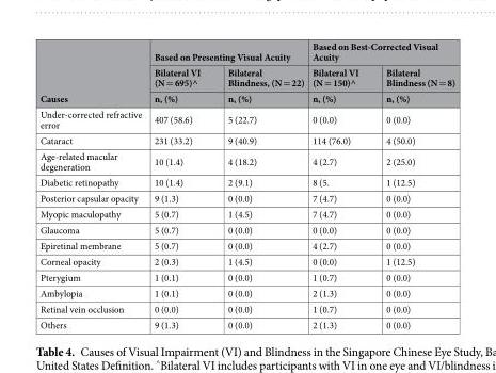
<table><thead><tr><td rowspan="3">Causes</td><td colspan="2">Based on Presenting Visual Acuity</td><td colspan="2">Based on Best-Corrected Visual Acuity</td></tr><tr><td rowspan="2">Bilateral VI (N = 695)^ n, (%)</td><td rowspan="2">Bilateral Blindness, (N = 22) n, (%)</td><td rowspan="2">Bilateral VI (N = 150)^ n, (%)</td><td rowspan="2">Bilateral Blindness (N = 8) n, (%)</td></tr><tr></tr></thead><tbody><tr><td>Under-corrected refractive error</td><td>407 (58.6)</td><td>5 (22.7)</td><td>0 (0.0)</td><td>0 (0.0)</td></tr><tr><td>Cataract</td><td>231 (33.2)</td><td>9 (40.9)</td><td>114 (76.0)</td><td>4 (50.0)</td></tr><tr><td>Age-related macular degeneration</td><td>10 (1.4)</td><td>4 (18.2)</td><td>4 (2.7)</td><td>2 (25.0)</td></tr><tr><td>Diabetic retinopathy</td><td>10 (1.4)</td><td>2 (9.1)</td><td>8 (5.</td><td>1 (12.5)</td></tr><tr><td>Posterior capsular opacity</td><td>9 (1.3)</td><td>0 (0.0)</td><td>7 (4.7)</td><td>0 (0.0)</td></tr><tr><td>Myopic maculopathy</td><td>5 (0.7)</td><td>1 (4.5)</td><td>7 (4.7)</td><td>0 (0.0)</td></tr><tr><td>Glaucoma</td><td>5 (0.7)</td><td>0 (0.0)</td><td>0 (0.0)</td><td>0 (0.0)</td></tr><tr><td>Epiretinal membrane</td><td>5 (0.7)</td><td>0 (0.0)</td><td>4 (2.7)</td><td>0 (0.0)</td></tr><tr><td>Corneal opacity</td><td>2 (0.3)</td><td>1 (4.5)</td><td>0 (0.0)</td><td>1 (12.5)</td></tr><tr><td>Pterygium</td><td>1 (0.1)</td><td>0 (0.0)</td><td>1 (0.7)</td><td>0 (0.0)</td></tr><tr><td>Ambylopia</td><td>1 (0.1)</td><td>0 (0.0)</td><td>2 (1.3)</td><td>0 (0.0)</td></tr><tr><td>Retinal vein occlusion</td><td>0 (0.0)</td><td>0 (0.0)</td><td>1 (0.7)</td><td>0 (0.0)</td></tr><tr><td>Others</td><td>9 (1.3)</td><td>0 (0.0)</td><td>2 (1.3)</td><td>0 (0.0)</td></tr></tbody></table>